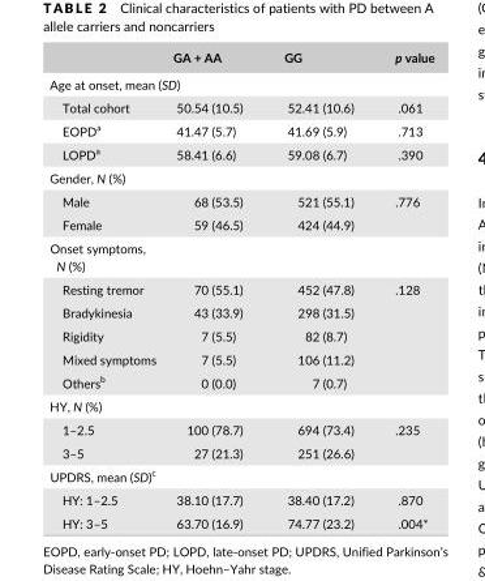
<table><thead><tr><td></td><td>GA + AA</td><td>GG</td><td>p value</td></tr></thead><tbody><tr><td colspan="4">Age at onset, mean (SD)</td></tr><tr><td>Total cohort</td><td>50.54 (10.5)</td><td>52.41 (10.6)</td><td>.061</td></tr><tr><td>EOPD<sup>a</sup></td><td>41.47 (5.7)</td><td>41.69 (5.9)</td><td>.713</td></tr><tr><td>LOPD<sup>a</sup></td><td>58.41 (6.6)</td><td>59.08 (6.7)</td><td>.390</td></tr><tr><td colspan="4">Gender, N (%)</td></tr><tr><td>Male</td><td>68 (53.5)</td><td>521 (55.1)</td><td>.776</td></tr><tr><td>Female</td><td>59 (46.5)</td><td>424 (44.9)</td><td></td></tr><tr><td colspan="4">Onset symptoms, N (%)</td></tr><tr><td>Resting tremor</td><td>70 (55.1)</td><td>452 (47.8)</td><td>.128</td></tr><tr><td>Bradykinesia</td><td>43 (33.9)</td><td>298 (31.5)</td><td></td></tr><tr><td>Rigidity</td><td>7 (5.5)</td><td>82 (8.7)</td><td></td></tr><tr><td>Mixed symptoms</td><td>7 (5.5)</td><td>106 (11.2)</td><td></td></tr><tr><td>Others<sup>b</sup></td><td>0 (0.0)</td><td>7 (0.7)</td><td></td></tr><tr><td colspan="4">HY, N (%)</td></tr><tr><td>1–2.5</td><td>100 (78.7)</td><td>694 (73.4)</td><td>.235</td></tr><tr><td>3–5</td><td>27 (21.3)</td><td>251 (26.6)</td><td></td></tr><tr><td colspan="4">UPDRS, mean (SD)<sup>c</sup></td></tr><tr><td>HY: 1–2.5</td><td>38.10 (17.7)</td><td>38.40 (17.2)</td><td>.870</td></tr><tr><td>HY: 3–5</td><td>63.70 (16.9)</td><td>74.77 (23.2)</td><td>.004*</td></tr></tbody></table>